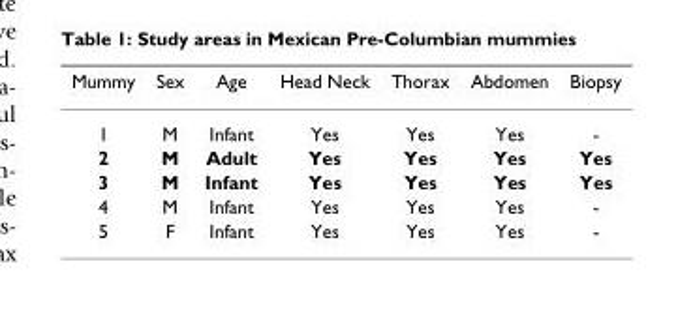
<table><thead><tr><td>Mummy</td><td>Sex</td><td>Age</td><td>Head Neck</td><td>Thorax</td><td>Abdomen</td><td>Biopsy</td></tr></thead><tbody><tr><td>1</td><td>M</td><td>Infant</td><td>Yes</td><td>Yes</td><td>Yes</td><td>-</td></tr><tr><td>2</td><td>M</td><td>Adult</td><td>Yes</td><td>Yes</td><td>Yes</td><td>Yes</td></tr><tr><td>3</td><td>M</td><td>Infant</td><td>Yes</td><td>Yes</td><td>Yes</td><td>Yes</td></tr><tr><td>4</td><td>M</td><td>Infant</td><td>Yes</td><td>Yes</td><td>Yes</td><td>-</td></tr><tr><td>5</td><td>F</td><td>Infant</td><td>Yes</td><td>Yes</td><td>Yes</td><td>-</td></tr></tbody></table>